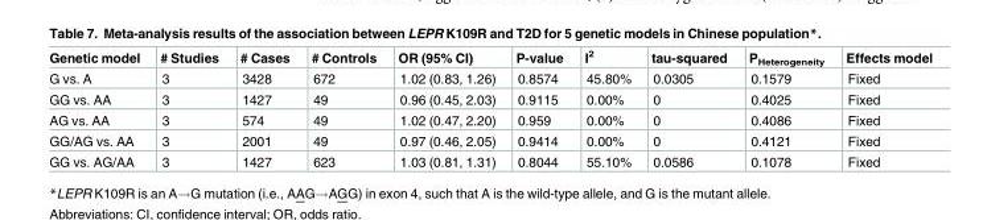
<table><thead><tr><td>Genetic model</td><td># Studies</td><td># Cases</td><td># Controls</td><td>OR (95% CI)</td><td>P-value</td><td>I<sup>2</sup></td><td>tau-squared</td><td>P<sub>Heterogeneity</sub></td><td>Effects model</td></tr></thead><tbody><tr><td>G vs. A</td><td>3</td><td>3428</td><td>672</td><td>1.02 (0.83, 1.26)</td><td>0.8574</td><td>45.80%</td><td>0.0305</td><td>0.1579</td><td>Fixed</td></tr><tr><td>GG vs. AA</td><td>3</td><td>1427</td><td>49</td><td>0.96 (0.45, 2.03)</td><td>0.9115</td><td>0.00%</td><td>0</td><td>0.4025</td><td>Fixed</td></tr><tr><td>AG vs. AA</td><td>3</td><td>574</td><td>49</td><td>1.02 (0.47, 2.20)</td><td>0.959</td><td>0.00%</td><td>0</td><td>0.4086</td><td>Fixed</td></tr><tr><td>GG/AG vs. AA</td><td>3</td><td>2001</td><td>49</td><td>0.97 (0.46, 2.05)</td><td>0.9414</td><td>0.00%</td><td>0</td><td>0.4121</td><td>Fixed</td></tr><tr><td>GG vs. AG/AA</td><td>3</td><td>1427</td><td>623</td><td>1.03 (0.81, 1.31)</td><td>0.8044</td><td>55.10%</td><td>0.0586</td><td>0.1078</td><td>Fixed</td></tr></tbody></table>